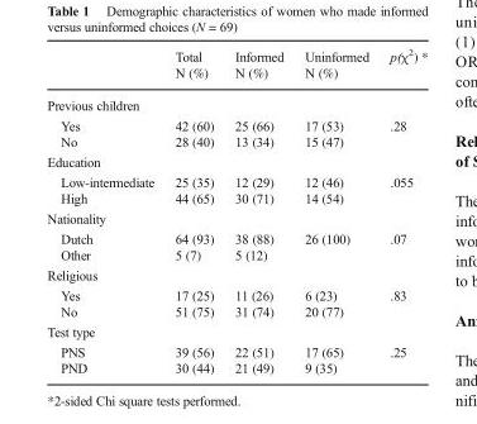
<table><thead><tr><td rowspan="2"></td><td rowspan="2">Total N (%)</td><td rowspan="2">Informed N (%)</td><td rowspan="2">Uninformed N (%)</td><td rowspan="2">p(χ<sup>2</sup>) *</td></tr><tr></tr></thead><tbody><tr><td colspan="5">Previous children</td></tr><tr><td>Yes</td><td>42 (60)</td><td>25 (66)</td><td>17 (53)</td><td rowspan="2">.28</td></tr><tr><td>No</td><td>28 (40)</td><td>13 (34)</td><td>15 (47)</td></tr><tr><td colspan="5">Education</td></tr><tr><td>Low-intermediate</td><td>25 (35)</td><td>12 (29)</td><td>12 (46)</td><td rowspan="2">.055</td></tr><tr><td>High</td><td>44 (65)</td><td>30 (71)</td><td>14 (54)</td></tr><tr><td colspan="5">Nationality</td></tr><tr><td>Dutch</td><td>64 (93)</td><td>38 (88)</td><td>26 (100)</td><td rowspan="2">.07</td></tr><tr><td>Other</td><td>5 (7)</td><td>5 (12)</td><td></td></tr><tr><td colspan="5">Religious</td></tr><tr><td>Yes</td><td>17 (25)</td><td>11 (26)</td><td>6 (23)</td><td rowspan="2">.83</td></tr><tr><td>No</td><td>51 (75)</td><td>31 (74)</td><td>20 (77)</td></tr><tr><td colspan="5">Test type</td></tr><tr><td>PNS</td><td>39 (56)</td><td>22 (51)</td><td>17 (65)</td><td rowspan="2">.25</td></tr><tr><td>PND</td><td>30 (44)</td><td>21 (49)</td><td>9 (35)</td></tr></tbody></table>